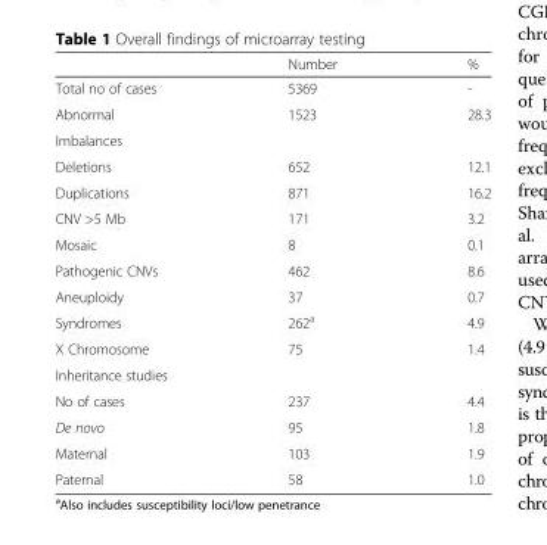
<table><thead><tr><td></td><td>Number</td><td>%</td></tr></thead><tbody><tr><td>Total no of cases</td><td>5369</td><td>-</td></tr><tr><td>Abnormal</td><td>1523</td><td>28.3</td></tr><tr><td colspan="3">Imbalances</td></tr><tr><td>Deletions</td><td>652</td><td>12.1</td></tr><tr><td>Duplications</td><td>871</td><td>16.2</td></tr><tr><td>CNV &gt;5 Mb</td><td>171</td><td>3.2</td></tr><tr><td>Mosaic</td><td>8</td><td>0.1</td></tr><tr><td>Pathogenic CNVs</td><td>462</td><td>8.6</td></tr><tr><td>Aneuploidy</td><td>37</td><td>0.7</td></tr><tr><td>Syndromes</td><td>262<sup>a</sup></td><td>4.9</td></tr><tr><td>X Chromosome</td><td>75</td><td>1.4</td></tr><tr><td colspan="3">Inheritance studies</td></tr><tr><td>No of cases</td><td>237</td><td>4.4</td></tr><tr><td>De novo</td><td>95</td><td>1.8</td></tr><tr><td>Maternal</td><td>103</td><td>1.9</td></tr><tr><td>Paternal</td><td>58</td><td>1.0</td></tr></tbody></table>